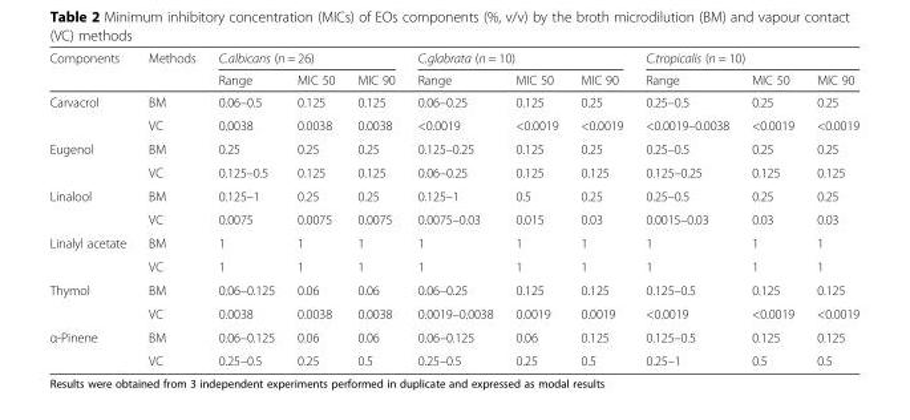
<table><thead><tr><td rowspan="2">Components</td><td rowspan="2">Methods</td><td colspan="3">C.albicans (n = 26)</td><td colspan="3">C.glabrata (n = 10)</td><td colspan="3">C.tropicalis (n = 10)</td></tr><tr><td>Range</td><td>MIC 50</td><td>MIC 90</td><td>Range</td><td>MIC 50</td><td>MIC 90</td><td>Range</td><td>MIC 50</td><td>MIC 90</td></tr></thead><tbody><tr><td rowspan="2">Carvacrol</td><td>BM</td><td>0.06–0.5</td><td>0.125</td><td>0.125</td><td>0.06–0.25</td><td>0.125</td><td>0.25</td><td>0.25–0.5</td><td>0.25</td><td>0.25</td></tr><tr><td>VC</td><td>0.0038</td><td>0.0038</td><td>0.0038</td><td>&lt;0.0019</td><td>&lt;0.0019</td><td>&lt;0.0019</td><td>&lt;0.0019–0.0038</td><td>&lt;0.0019</td><td>&lt;0.0019</td></tr><tr><td rowspan="2">Eugenol</td><td>BM</td><td>0.25</td><td>0.25</td><td>0.25</td><td>0.125–0.25</td><td>0.125</td><td>0.25</td><td>0.25–0.5</td><td>0.25</td><td>0.25</td></tr><tr><td>VC</td><td>0.125–0.5</td><td>0.125</td><td>0.125</td><td>0.06–0.25</td><td>0.125</td><td>0.125</td><td>0.125–0.25</td><td>0.125</td><td>0.125</td></tr><tr><td rowspan="2">Linalool</td><td>BM</td><td>0.125–1</td><td>0.25</td><td>0.25</td><td>0.125–1</td><td>0.5</td><td>0.25</td><td>0.25–0.5</td><td>0.25</td><td>0.25</td></tr><tr><td>VC</td><td>0.0075</td><td>0.0075</td><td>0.0075</td><td>0.0075–0.03</td><td>0.015</td><td>0.03</td><td>0.0015–0.03</td><td>0.03</td><td>0.03</td></tr><tr><td rowspan="2">Linalyl acetate</td><td>BM</td><td>1</td><td>1</td><td>1</td><td>1</td><td>1</td><td>1</td><td>1</td><td>1</td><td>1</td></tr><tr><td>VC</td><td>1</td><td>1</td><td>1</td><td>1</td><td>1</td><td>1</td><td>1</td><td>1</td><td>1</td></tr><tr><td rowspan="2">Thymol</td><td>BM</td><td>0.06–0.125</td><td>0.06</td><td>0.06</td><td>0.06–0.25</td><td>0.125</td><td>0.125</td><td>0.125–0.5</td><td>0.125</td><td>0.125</td></tr><tr><td>VC</td><td>0.0038</td><td>0.0038</td><td>0.0038</td><td>0.0019–0.0038</td><td>0.0019</td><td>0.0019</td><td>&lt;0.0019</td><td>&lt;0.0019</td><td>&lt;0.0019</td></tr><tr><td rowspan="2">α-Pinene</td><td>BM</td><td>0.06–0.125</td><td>0.06</td><td>0.06</td><td>0.06–0.125</td><td>0.06</td><td>0.125</td><td>0.125–0.5</td><td>0.125</td><td>0.125</td></tr><tr><td>VC</td><td>0.25–0.5</td><td>0.25</td><td>0.5</td><td>0.25–0.5</td><td>0.25</td><td>0.5</td><td>0.25–1</td><td>0.5</td><td>0.5</td></tr></tbody></table>